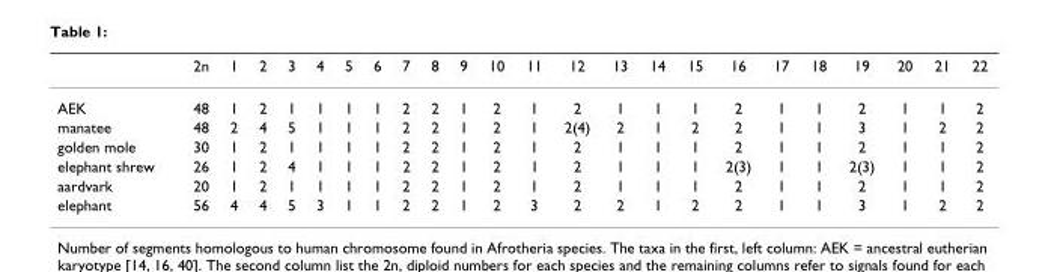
<table><thead><tr><td></td><td>2n</td><td>1</td><td>2</td><td>3</td><td>4</td><td>5</td><td>6</td><td>7</td><td>8</td><td>9</td><td>10</td><td>11</td><td>12</td><td>13</td><td>14</td><td>15</td><td>16</td><td>17</td><td>18</td><td>19</td><td>20</td><td>21</td><td>22</td></tr></thead><tbody><tr><td>AEK</td><td>48</td><td>1</td><td>2</td><td>1</td><td>1</td><td>1</td><td>1</td><td>2</td><td>2</td><td>1</td><td>2</td><td>1</td><td>2</td><td>1</td><td>1</td><td>1</td><td>2</td><td>1</td><td>1</td><td>2</td><td>1</td><td>1</td><td>2</td></tr><tr><td>manatee</td><td>48</td><td>2</td><td>4</td><td>5</td><td>1</td><td>1</td><td>1</td><td>2</td><td>2</td><td>1</td><td>2</td><td>1</td><td>2(4)</td><td>2</td><td>1</td><td>2</td><td>2</td><td>1</td><td>1</td><td>3</td><td>1</td><td>2</td><td>2</td></tr><tr><td>golden mole</td><td>30</td><td>1</td><td>2</td><td>1</td><td>1</td><td>1</td><td>1</td><td>2</td><td>2</td><td>1</td><td>2</td><td>1</td><td>2</td><td>1</td><td>1</td><td>1</td><td>2</td><td>1</td><td>1</td><td>2</td><td>1</td><td>1</td><td>2</td></tr><tr><td>elephant shrew</td><td>26</td><td>1</td><td>2</td><td>4</td><td>1</td><td>1</td><td>1</td><td>2</td><td>2</td><td>1</td><td>2</td><td>1</td><td>2</td><td>1</td><td>1</td><td>1</td><td>2(3)</td><td>1</td><td>1</td><td>2(3)</td><td>1</td><td>1</td><td>2</td></tr><tr><td>aardvark</td><td>20</td><td>1</td><td>2</td><td>1</td><td>1</td><td>1</td><td>1</td><td>2</td><td>2</td><td>1</td><td>2</td><td>1</td><td>2</td><td>1</td><td>1</td><td>1</td><td>2</td><td>1</td><td>1</td><td>2</td><td>1</td><td>1</td><td>2</td></tr><tr><td>elephant</td><td>56</td><td>4</td><td>4</td><td>5</td><td>3</td><td>1</td><td>1</td><td>2</td><td>2</td><td>1</td><td>2</td><td>3</td><td>2</td><td>2</td><td>1</td><td>2</td><td>2</td><td>1</td><td>1</td><td>3</td><td>1</td><td>2</td><td>2</td></tr></tbody></table>